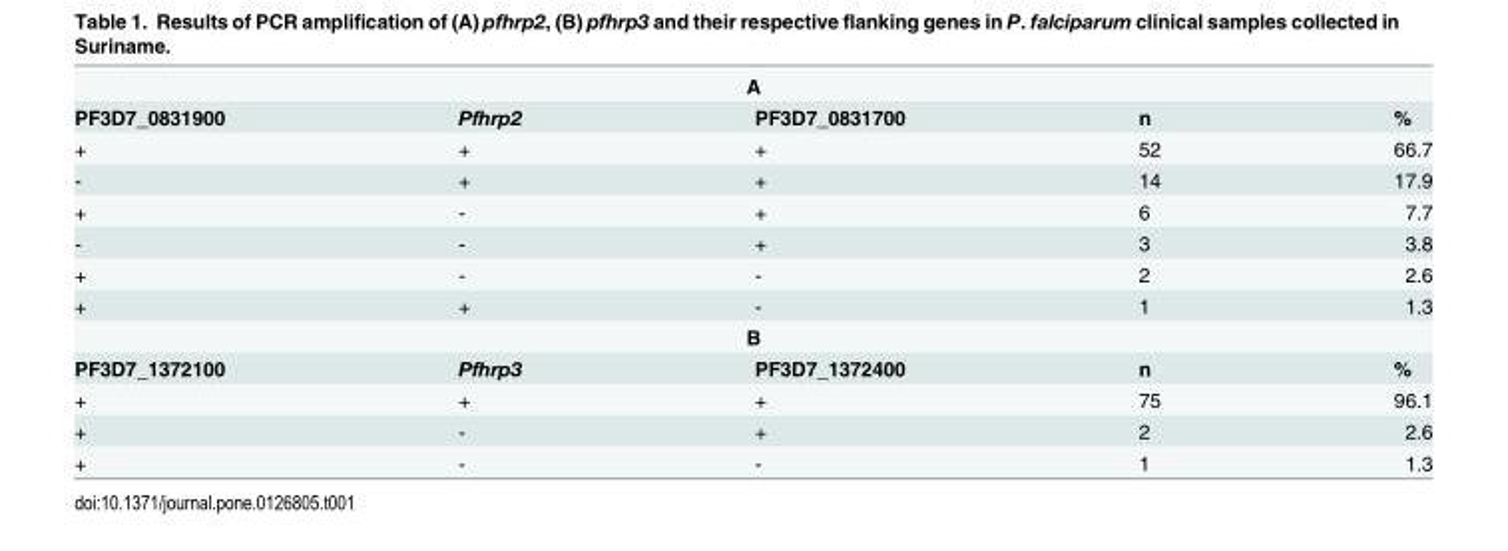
<table><tbody><tr><td colspan="5">A</td></tr><tr><td>PF3D7_0831900</td><td>Pfhrp2</td><td>PF3D7_0831700</td><td>n</td><td>%</td></tr><tr><td>+</td><td>+</td><td>+</td><td>52</td><td>66.7</td></tr><tr><td>-</td><td>+</td><td>+</td><td>14</td><td>17.9</td></tr><tr><td>+</td><td>-</td><td>+</td><td>6</td><td>7.7</td></tr><tr><td>-</td><td>-</td><td>+</td><td>3</td><td>3.8</td></tr><tr><td>+</td><td>-</td><td>-</td><td>2</td><td>2.6</td></tr><tr><td>+</td><td>+</td><td>-</td><td>1</td><td>1.3</td></tr><tr><td colspan="5">B</td></tr><tr><td>PF3D7_1372100</td><td>Pfhrp3</td><td>PF3D7_1372400</td><td>n</td><td>%</td></tr><tr><td>+</td><td>+</td><td>+</td><td>75</td><td>96.1</td></tr><tr><td>+</td><td>-</td><td>+</td><td>2</td><td>2.6</td></tr><tr><td>+</td><td>-</td><td>-</td><td>1</td><td>1.3</td></tr></tbody></table>